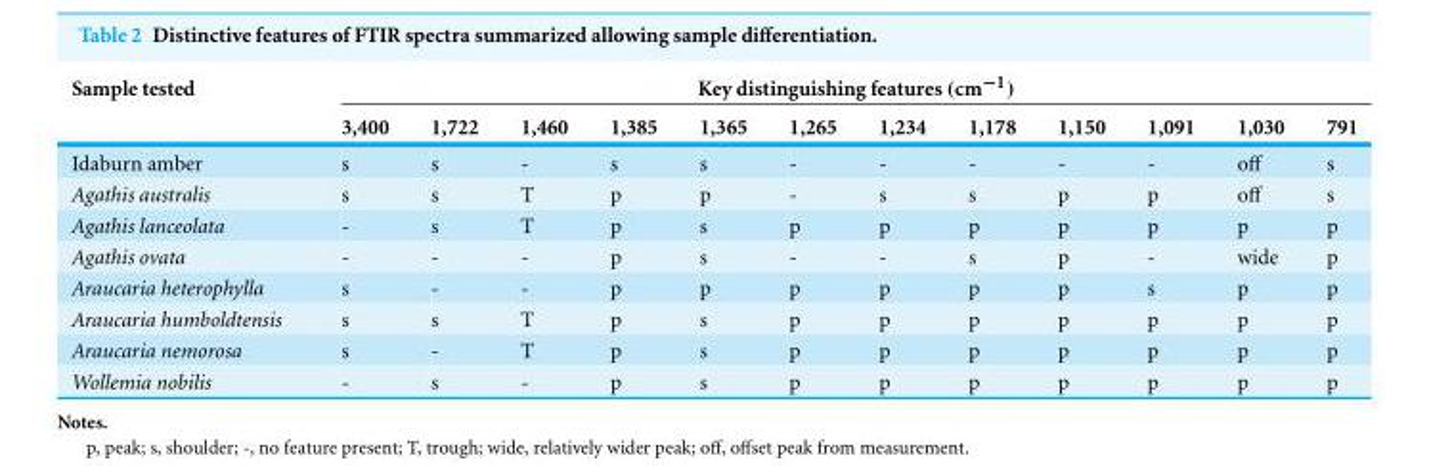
<table><thead><tr><td rowspan="2">Sample tested</td><td colspan="12">Key distinguishing features (cm<sup>−1</sup>)</td></tr><tr><td>3,400</td><td>1,722</td><td>1,460</td><td>1,385</td><td>1,365</td><td>1,265</td><td>1,234</td><td>1,178</td><td>1,150</td><td>1,091</td><td>1,030</td><td>791</td></tr></thead><tbody><tr><td>Idaburn amber</td><td>s</td><td>s</td><td>-</td><td>s</td><td>s</td><td>-</td><td>-</td><td>-</td><td>-</td><td>-</td><td>off</td><td>s</td></tr><tr><td>Agathis australis</td><td>s</td><td>s</td><td>T</td><td>p</td><td>p</td><td>-</td><td>s</td><td>s</td><td>p</td><td>p</td><td>off</td><td>s</td></tr><tr><td>Agathis lanceolata</td><td>-</td><td>s</td><td>T</td><td>p</td><td>s</td><td>p</td><td>p</td><td>p</td><td>p</td><td>p</td><td>p</td><td>p</td></tr><tr><td>Agathis ovata</td><td>-</td><td>-</td><td>-</td><td>p</td><td>s</td><td>-</td><td>-</td><td>s</td><td>p</td><td>-</td><td>wide</td><td>p</td></tr><tr><td>Araucaria heterophylla</td><td>s</td><td>-</td><td>-</td><td>p</td><td>p</td><td>p</td><td>p</td><td>p</td><td>p</td><td>s</td><td>p</td><td>p</td></tr><tr><td>Araucaria humboldtensis</td><td>s</td><td>s</td><td>T</td><td>p</td><td>s</td><td>p</td><td>p</td><td>p</td><td>p</td><td>p</td><td>p</td><td>p</td></tr><tr><td>Araucaria nemorosa</td><td>s</td><td>-</td><td>T</td><td>p</td><td>s</td><td>p</td><td>p</td><td>p</td><td>p</td><td>p</td><td>p</td><td>p</td></tr><tr><td>Wollemia nobilis</td><td>-</td><td>s</td><td>-</td><td>p</td><td>s</td><td>p</td><td>p</td><td>p</td><td>p</td><td>p</td><td>p</td><td>p</td></tr></tbody></table>